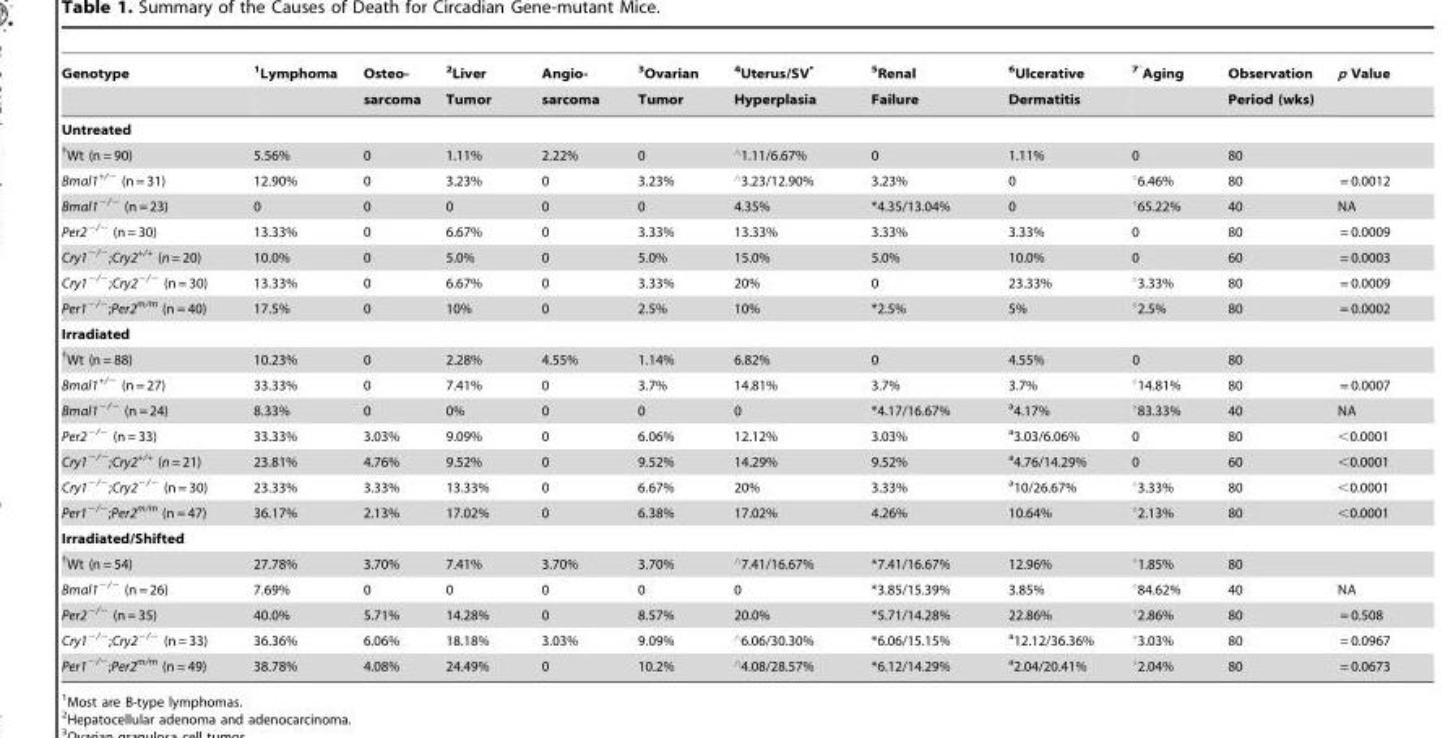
<table><thead><tr><td rowspan="2">Genotype</td><td rowspan="2">1Lymphoma</td><td rowspan="2">Osteo- sarcoma</td><td rowspan="2">2Liver Tumor</td><td rowspan="2">Angio- sarcoma</td><td rowspan="2">3Ovarian Tumor</td><td rowspan="2">4Uterus/SV• Hyperplasia</td><td rowspan="2">5Renal Failure</td><td rowspan="2">6Ulcerative Dermatitis</td><td rowspan="2">7°Aging</td><td rowspan="2">Observation Period (wks)</td><td rowspan="2">p Value</td></tr><tr></tr></thead><tbody><tr><td colspan="12">Untreated</td></tr><tr><td>†Wt (n = 90)</td><td>5.56%</td><td>0</td><td>1.11%</td><td>2.22%</td><td>0</td><td>‘1.11/6.67%</td><td>0</td><td>1.11%</td><td>0</td><td>80</td><td></td></tr><tr><td>Bmal1<sup>+/−</sup> (n = 31)</td><td>12.90%</td><td>0</td><td>3.23%</td><td>0</td><td>3.23%</td><td>‘3.23/12.90%</td><td>3.23%</td><td>0</td><td>°6.46%</td><td>80</td><td>= 0.0012</td></tr><tr><td>Bmal1<sup>−/−</sup> (n = 23)</td><td>0</td><td>0</td><td>0</td><td>0</td><td>0</td><td>4.35%</td><td>*4.35/13.04%</td><td>0</td><td>°65.22%</td><td>40</td><td>NA</td></tr><tr><td>Per2<sup>−/−</sup> (n = 30)</td><td>13.33%</td><td>0</td><td>6.67%</td><td>0</td><td>3.33%</td><td>13.33%</td><td>3.33%</td><td>3.33%</td><td>0</td><td>80</td><td>= 0.0009</td></tr><tr><td>Cry1<sup>−/−</sup>;Cry2<sup>+/+</sup> (n = 20)</td><td>10.0%</td><td>0</td><td>5.0%</td><td>0</td><td>5.0%</td><td>15.0%</td><td>5.0%</td><td>10.0%</td><td>0</td><td>60</td><td>= 0.0003</td></tr><tr><td>Cry1<sup>−/−</sup>;Cry2<sup>−/−</sup> (n = 30)</td><td>13.33%</td><td>0</td><td>6.67%</td><td>0</td><td>3.33%</td><td>20%</td><td>0</td><td>23.33%</td><td>°3.33%</td><td>80</td><td>= 0.0009</td></tr><tr><td>Per1<sup>−/−</sup>;Per2<sup>m/m</sup> (n = 40)</td><td>17.5%</td><td>0</td><td>10%</td><td>0</td><td>2.5%</td><td>10%</td><td>*2.5%</td><td>5%</td><td>°2.5%</td><td>80</td><td>= 0.0002</td></tr><tr><td colspan="12">Irradiated</td></tr><tr><td>†Wt (n = 88)</td><td>10.23%</td><td>0</td><td>2.28%</td><td>4.55%</td><td>1.14%</td><td>6.82%</td><td>0</td><td>4.55%</td><td>0</td><td>80</td><td></td></tr><tr><td>Bmal1<sup>+/−</sup> (n = 27)</td><td>33.33%</td><td>0</td><td>7.41%</td><td>0</td><td>3.7%</td><td>14.81%</td><td>3.7%</td><td>3.7%</td><td>°14.81%</td><td>80</td><td>= 0.0007</td></tr><tr><td>Bmal1<sup>−/−</sup> (n = 24)</td><td>8.33%</td><td>0</td><td>0%</td><td>0</td><td>0</td><td>0</td><td>*4.17/16.67%</td><td>a4.17%</td><td>°83.33%</td><td>40</td><td>NA</td></tr><tr><td>Per2<sup>−/−</sup> (n = 33)</td><td>33.33%</td><td>3.03%</td><td>9.09%</td><td>0</td><td>6.06%</td><td>12.12%</td><td>3.03%</td><td>a3.03/6.06%</td><td>0</td><td>80</td><td>&lt;0.0001</td></tr><tr><td>Cry1<sup>−/−</sup>;Cry2<sup>+/+</sup> (n = 21)</td><td>23.81%</td><td>4.76%</td><td>9.52%</td><td>0</td><td>9.52%</td><td>14.29%</td><td>9.52%</td><td>a4.76/14.29%</td><td>0</td><td>60</td><td>&lt;0.0001</td></tr><tr><td>Cry1<sup>−/−</sup>;Cry2<sup>−/−</sup> (n = 30)</td><td>23.33%</td><td>3.33%</td><td>13.33%</td><td>0</td><td>6.67%</td><td>20%</td><td>3.33%</td><td>a10/26.67%</td><td>°3.33%</td><td>80</td><td>&lt;0.0001</td></tr><tr><td>Per1<sup>−/−</sup>;Per2<sup>m/m</sup> (n = 47)</td><td>36.17%</td><td>2.13%</td><td>17.02%</td><td>0</td><td>6.38%</td><td>17.02%</td><td>4.26%</td><td>10.64%</td><td>°2.13%</td><td>80</td><td>&lt;0.0001</td></tr><tr><td colspan="12">Irradiated/Shifted</td></tr><tr><td>†Wt (n = 54)</td><td>27.78%</td><td>3.70%</td><td>7.41%</td><td>3.70%</td><td>3.70%</td><td>‘7.41/16.67%</td><td>*7.41/16.67%</td><td>12.96%</td><td>°1.85%</td><td>80</td><td></td></tr><tr><td>Bmal1<sup>−/−</sup> (n = 26)</td><td>7.69%</td><td>0</td><td>0</td><td>0</td><td>0</td><td>0</td><td>*3.85/15.39%</td><td>3.85%</td><td>°84.62%</td><td>40</td><td>NA</td></tr><tr><td>Per2<sup>−/−</sup> (n = 35)</td><td>40.0%</td><td>5.71%</td><td>14.28%</td><td>0</td><td>8.57%</td><td>20.0%</td><td>*5.71/14.28%</td><td>22.86%</td><td>°2.86%</td><td>80</td><td>= 0.508</td></tr><tr><td>Cry1<sup>−/−</sup>;Cry2<sup>−/−</sup> (n = 33)</td><td>36.36%</td><td>6.06%</td><td>18.18%</td><td>3.03%</td><td>9.09%</td><td>‘6.06/30.30%</td><td>*6.06/15.15%</td><td>a12.12/36.36%</td><td>°3.03%</td><td>80</td><td>= 0.0967</td></tr><tr><td>Per1<sup>−/−</sup>;Per2<sup>m/m</sup> (n = 49)</td><td>38.78%</td><td>4.08%</td><td>24.49%</td><td>0</td><td>10.2%</td><td>‘4.08/28.57%</td><td>*6.12/14.29%</td><td>a2.04/20.41%</td><td>°2.04%</td><td>80</td><td>= 0.0673</td></tr></tbody></table>